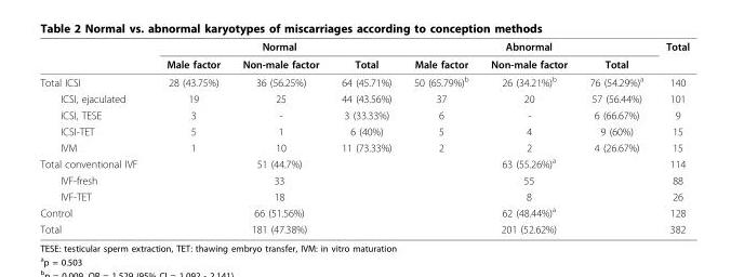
<table><thead><tr><td rowspan="2"></td><td colspan="3">Normal</td><td colspan="3">Abnormal</td><td rowspan="2">Total</td></tr><tr><td>Male factor</td><td>Non-male factor</td><td>Total</td><td>Male factor</td><td>Non-male factor</td><td>Total</td></tr></thead><tbody><tr><td>Total ICSI</td><td>28 (43.75%)</td><td>36 (56.25%)</td><td>64 (45.71%)</td><td>50 (65.79%)<sup>b</sup></td><td>26 (34.21%)<sup>b</sup></td><td>76 (54.29%)<sup>a</sup></td><td>140</td></tr><tr><td>ICSI, ejaculated</td><td>19</td><td>25</td><td>44 (43.56%)</td><td>37</td><td>20</td><td>57 (56.44%)</td><td>101</td></tr><tr><td>ICSI, TESE</td><td>3</td><td>-</td><td>3 (33.33%)</td><td>6</td><td>-</td><td>6 (66.67%)</td><td>9</td></tr><tr><td>ICSI-TET</td><td>5</td><td>1</td><td>6 (40%)</td><td>5</td><td>4</td><td>9 (60%)</td><td>15</td></tr><tr><td>IVM</td><td>1</td><td>10</td><td>11 (73.33%)</td><td>2</td><td>2</td><td>4 (26.67%)</td><td>15</td></tr><tr><td>Total conventional IVF</td><td colspan="3">51 (44.7%)</td><td colspan="3">63 (55.26%)<sup>a</sup></td><td>114</td></tr><tr><td>IVF-fresh</td><td colspan="3">33</td><td colspan="3">55</td><td>88</td></tr><tr><td>IVF-TET</td><td colspan="3">18</td><td colspan="3">8</td><td>26</td></tr><tr><td>Control</td><td colspan="3">66 (51.56%)</td><td colspan="3">62 (48.44%)<sup>a</sup></td><td>128</td></tr><tr><td>Total</td><td colspan="3">181 (47.38%)</td><td colspan="3">201 (52.62%)</td><td>382</td></tr></tbody></table>